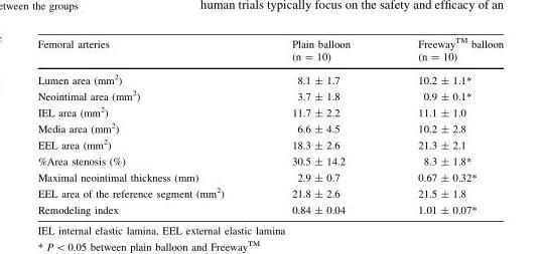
<table><thead><tr><td>Femoral arteries</td><td>Plain balloon (n = 10)</td><td>FreewayTM balloon (n = 10)</td></tr></thead><tbody><tr><td>Lumen area (mm<sup>2</sup>)</td><td>8.1 ± 1.7</td><td>10.2 ± 1.1*</td></tr><tr><td>Neointimal area (mm<sup>2</sup>)</td><td>3.7 ± 1.8</td><td>0.9 ± 0.1*</td></tr><tr><td>IEL area (mm<sup>2</sup>)</td><td>11.7 ± 2.2</td><td>11.1 ± 1.0</td></tr><tr><td>Media area (mm<sup>2</sup>)</td><td>6.6 ± 4.5</td><td>10.2 ± 2.8</td></tr><tr><td>EEL area (mm<sup>2</sup>)</td><td>18.3 ± 2.6</td><td>21.3 ± 2.1</td></tr><tr><td>%Area stenosis (%)</td><td>30.5 ± 14.2</td><td>8.3 ± 1.8*</td></tr><tr><td>Maximal neointimal thickness (mm)</td><td>2.9 ± 0.7</td><td>0.67 ± 0.32*</td></tr><tr><td>EEL area of the reference segment (mm<sup>2</sup>)</td><td>21.8 ± 2.6</td><td>21.5 ± 1.8</td></tr><tr><td>Remodeling index</td><td>0.84 ± 0.04</td><td>1.01 ± 0.07*</td></tr></tbody></table>